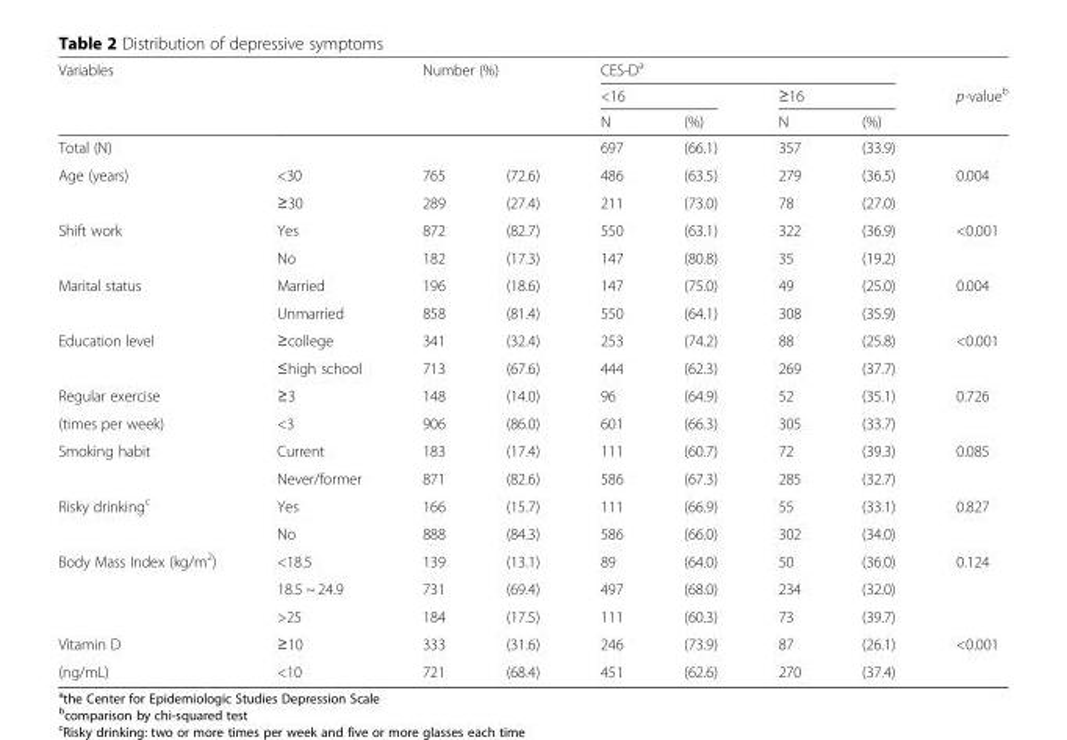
<table><thead><tr><td rowspan="4">Variables Total (N)</td><td rowspan="4"></td><td rowspan="3" colspan="2">Number (%)</td><td colspan="4">CES-D<sup>a</sup></td><td rowspan="4">p-value<sup>b</sup></td></tr><tr><td colspan="2">&lt;16</td><td colspan="2">≥16</td></tr><tr><td rowspan="2">N 697</td><td rowspan="2">(%) (66.1)</td><td rowspan="2">N 357</td><td rowspan="2">(%) (33.9)</td></tr><tr><td></td><td></td></tr></thead><tbody><tr><td rowspan="2">Age (years)</td><td>&lt;30</td><td>765</td><td>(72.6)</td><td>486</td><td>(63.5)</td><td>279</td><td>(36.5)</td><td>0.004</td></tr><tr><td>≥30</td><td>289</td><td>(27.4)</td><td>211</td><td>(73.0)</td><td>78</td><td>(27.0)</td><td></td></tr><tr><td rowspan="2">Shift work</td><td>Yes</td><td>872</td><td>(82.7)</td><td>550</td><td>(63.1)</td><td>322</td><td>(36.9)</td><td>&lt;0.001</td></tr><tr><td>No</td><td>182</td><td>(17.3)</td><td>147</td><td>(80.8)</td><td>35</td><td>(19.2)</td><td></td></tr><tr><td rowspan="2">Marital status</td><td>Married</td><td>196</td><td>(18.6)</td><td>147</td><td>(75.0)</td><td>49</td><td>(25.0)</td><td>0.004</td></tr><tr><td>Unmarried</td><td>858</td><td>(81.4)</td><td>550</td><td>(64.1)</td><td>308</td><td>(35.9)</td><td></td></tr><tr><td rowspan="2">Education level</td><td>≥college</td><td>341</td><td>(32.4)</td><td>253</td><td>(74.2)</td><td>88</td><td>(25.8)</td><td>&lt;0.001</td></tr><tr><td>≤high school</td><td>713</td><td>(67.6)</td><td>444</td><td>(62.3)</td><td>269</td><td>(37.7)</td><td></td></tr><tr><td>Regular exercise</td><td>≥3</td><td>148</td><td>(14.0)</td><td>96</td><td>(64.9)</td><td>52</td><td>(35.1)</td><td>0.726</td></tr><tr><td>(times per week)</td><td>&lt;3</td><td>906</td><td>(86.0)</td><td>601</td><td>(66.3)</td><td>305</td><td>(33.7)</td><td></td></tr><tr><td rowspan="2">Smoking habit</td><td>Current</td><td>183</td><td>(17.4)</td><td>111</td><td>(60.7)</td><td>72</td><td>(39.3)</td><td>0.085</td></tr><tr><td>Never/former</td><td>871</td><td>(82.6)</td><td>586</td><td>(67.3)</td><td>285</td><td>(32.7)</td><td></td></tr><tr><td rowspan="2">Risky drinking<sup>c</sup></td><td>Yes</td><td>166</td><td>(15.7)</td><td>111</td><td>(66.9)</td><td>55</td><td>(33.1)</td><td>0.827</td></tr><tr><td>No</td><td>888</td><td>(84.3)</td><td>586</td><td>(66.0)</td><td>302</td><td>(34.0)</td><td></td></tr><tr><td rowspan="3">Body Mass Index (kg/m<sup>2</sup>)</td><td>&lt;18.5</td><td>139</td><td>(13.1)</td><td>89</td><td>(64.0)</td><td>50</td><td>(36.0)</td><td>0.124</td></tr><tr><td>18.5 ~ 24.9</td><td>731</td><td>(69.4)</td><td>497</td><td>(68.0)</td><td>234</td><td>(32.0)</td><td></td></tr><tr><td>&gt;25</td><td>184</td><td>(17.5)</td><td>111</td><td>(60.3)</td><td>73</td><td>(39.7)</td><td></td></tr><tr><td>Vitamin D</td><td>≥10</td><td>333</td><td>(31.6)</td><td>246</td><td>(73.9)</td><td>87</td><td>(26.1)</td><td>&lt;0.001</td></tr><tr><td>(ng/mL)</td><td>&lt;10</td><td>721</td><td>(68.4)</td><td>451</td><td>(62.6)</td><td>270</td><td>(37.4)</td><td></td></tr></tbody></table>